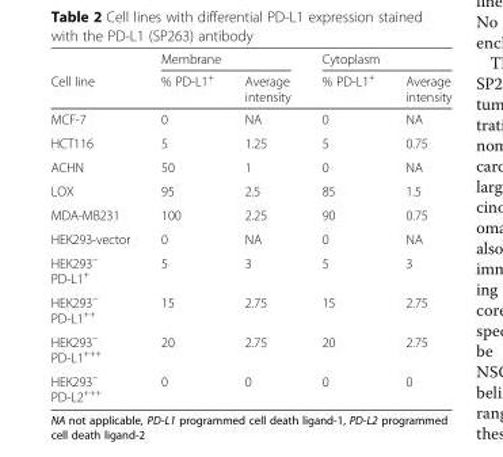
<table><thead><tr><td rowspan="2">Cell line</td><td colspan="2">Membrane</td><td colspan="2">Cytoplasm</td></tr><tr><td>% PD-L1<sup>+</sup></td><td>Average intensity</td><td>% PD-L1<sup>+</sup></td><td>Average intensity</td></tr></thead><tbody><tr><td>MCF-7</td><td>0</td><td>NA</td><td>0</td><td>NA</td></tr><tr><td>HCT116</td><td>5</td><td>1.25</td><td>5</td><td>0.75</td></tr><tr><td>ACHN</td><td>50</td><td>1</td><td>0</td><td>NA</td></tr><tr><td>LOX</td><td>95</td><td>2.5</td><td>85</td><td>1.5</td></tr><tr><td>MDA-MB231</td><td>100</td><td>2.25</td><td>90</td><td>0.75</td></tr><tr><td>HEK293-vector</td><td>0</td><td>NA</td><td>0</td><td>NA</td></tr><tr><td>HEK293<sup>−</sup> PD-L1<sup>+</sup></td><td>5</td><td>3</td><td>5</td><td>3</td></tr><tr><td>HEK293<sup>−</sup> PD-L1<sup>++</sup></td><td>15</td><td>2.75</td><td>15</td><td>2.75</td></tr><tr><td>HEK293<sup>−</sup> PD-L1<sup>+++</sup></td><td>20</td><td>2.75</td><td>20</td><td>2.75</td></tr><tr><td>HEK293<sup>−</sup> PD-L2<sup>+++</sup></td><td>0</td><td>0</td><td>0</td><td>0</td></tr></tbody></table>